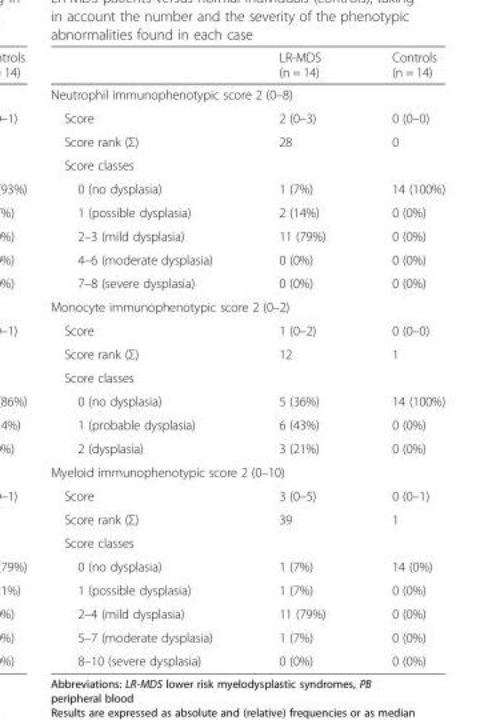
<table><thead><tr><td></td><td>LR-MDS (n = 14)</td><td>Controls (n = 14)</td></tr></thead><tbody><tr><td colspan="3">Neutrophil immunophenotypic score 2 (0–8)</td></tr><tr><td>Score</td><td>2 (0–3)</td><td>0 (0–0)</td></tr><tr><td>Score rank (Σ)</td><td>28</td><td>0</td></tr><tr><td colspan="3">Score classes</td></tr><tr><td>0 (no dysplasia)</td><td>1 (7%)</td><td>14 (100%)</td></tr><tr><td>1 (possible dysplasia)</td><td>2 (14%)</td><td>0 (0%)</td></tr><tr><td>2–3 (mild dysplasia)</td><td>11 (79%)</td><td>0 (0%)</td></tr><tr><td>4–6 (moderate dysplasia)</td><td>0 (0%)</td><td>0 (0%)</td></tr><tr><td>7–8 (severe dysplasia)</td><td>0 (0%)</td><td>0 (0%)</td></tr><tr><td colspan="3">Monocyte immunophenotypic score 2 (0–2)</td></tr><tr><td>Score</td><td>1 (0–2)</td><td>0 (0–0)</td></tr><tr><td>Score rank (Σ)</td><td>12</td><td>1</td></tr><tr><td colspan="3">Score classes</td></tr><tr><td>0 (no dysplasia)</td><td>5 (36%)</td><td>14 (100%)</td></tr><tr><td>1 (probable dysplasia)</td><td>6 (43%)</td><td>0 (0%)</td></tr><tr><td>2 (dysplasia)</td><td>3 (21%)</td><td>0 (0%)</td></tr><tr><td colspan="3">Myeloid immunophenotypic score 2 (0–10)</td></tr><tr><td>Score</td><td>3 (0–5)</td><td>0 (0–1)</td></tr><tr><td>Score rank (Σ)</td><td>39</td><td>1</td></tr><tr><td colspan="3">Score classes</td></tr><tr><td>0 (no dysplasia)</td><td>1 (7%)</td><td>14 (0%)</td></tr><tr><td>1 (possible dysplasia)</td><td>1 (7%)</td><td>0 (0%)</td></tr><tr><td>2–4 (mild dysplasia)</td><td>11 (79%)</td><td>0 (0%)</td></tr><tr><td>5–7 (moderate dysplasia)</td><td>1 (7%)</td><td>0 (0%)</td></tr><tr><td>8–10 (severe dysplasia)</td><td>0 (0%)</td><td>0 (0%)</td></tr></tbody></table>